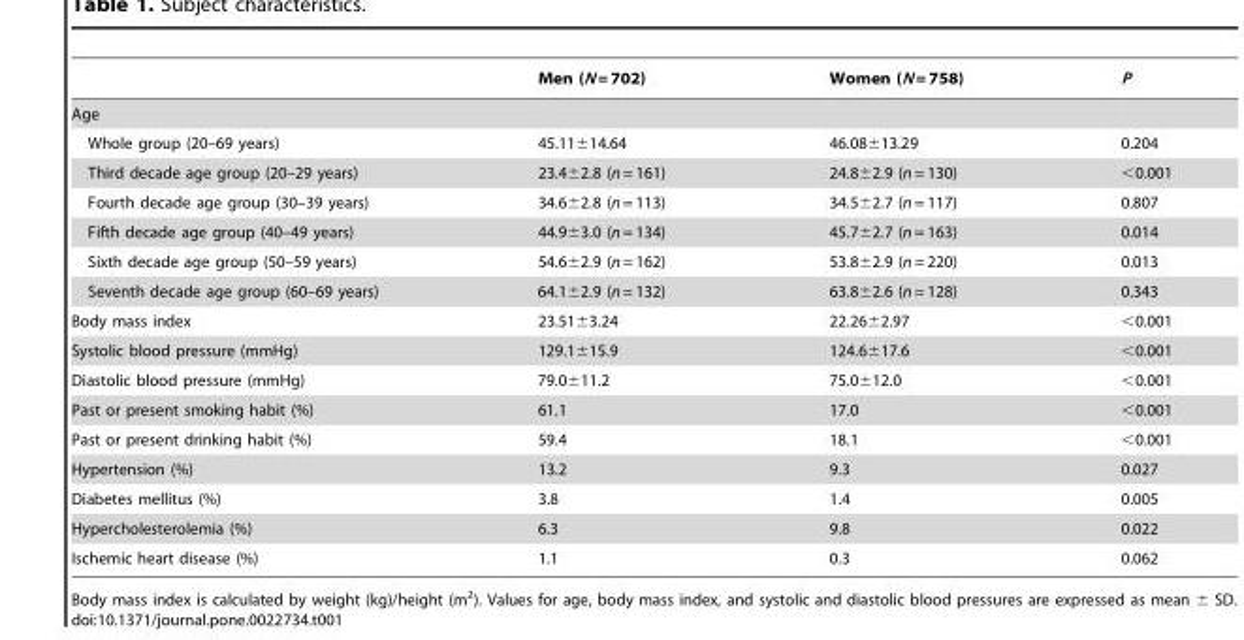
<table><thead><tr><td></td><td>Men (N = 702)</td><td>Women (N = 758)</td><td>P</td></tr></thead><tbody><tr><td colspan="4">Age</td></tr><tr><td>Whole group (20–69 years)</td><td>45.11±14.64</td><td>46.08±13.29</td><td>0.204</td></tr><tr><td>Third decade age group (20–29 years)</td><td>23.4±2.8 (n = 161)</td><td>24.8±2.9 (n = 130)</td><td>&lt;0.001</td></tr><tr><td>Fourth decade age group (30–39 years)</td><td>34.6±2.8 (n = 113)</td><td>34.5±2.7 (n = 117)</td><td>0.807</td></tr><tr><td>Fifth decade age group (40–49 years)</td><td>44.9±3.0 (n = 134)</td><td>45.7±2.7 (n = 163)</td><td>0.014</td></tr><tr><td>Sixth decade age group (50–59 years)</td><td>54.6±2.9 (n = 162)</td><td>53.8±2.9 (n = 220)</td><td>0.013</td></tr><tr><td>Seventh decade age group (60–69 years)</td><td>64.1±2.9 (n = 132)</td><td>63.8±2.6 (n = 128)</td><td>0.343</td></tr><tr><td>Body mass index</td><td>23.51±3.24</td><td>22.26±2.97</td><td>&lt;0.001</td></tr><tr><td>Systolic blood pressure (mmHg)</td><td>129.1±15.9</td><td>124.6±17.6</td><td>&lt;0.001</td></tr><tr><td>Diastolic blood pressure (mmHg)</td><td>79.0±11.2</td><td>75.0±12.0</td><td>&lt;0.001</td></tr><tr><td>Past or present smoking habit (%)</td><td>61.1</td><td>17.0</td><td>&lt;0.001</td></tr><tr><td>Past or present drinking habit (%)</td><td>59.4</td><td>18.1</td><td>&lt;0.001</td></tr><tr><td>Hypertension (%)</td><td>13.2</td><td>9.3</td><td>0.027</td></tr><tr><td>Diabetes mellitus (%)</td><td>3.8</td><td>1.4</td><td>0.005</td></tr><tr><td>Hypercholesterolemia (%)</td><td>6.3</td><td>9.8</td><td>0.022</td></tr><tr><td>Ischemic heart disease (%)</td><td>1.1</td><td>0.3</td><td>0.062</td></tr></tbody></table>